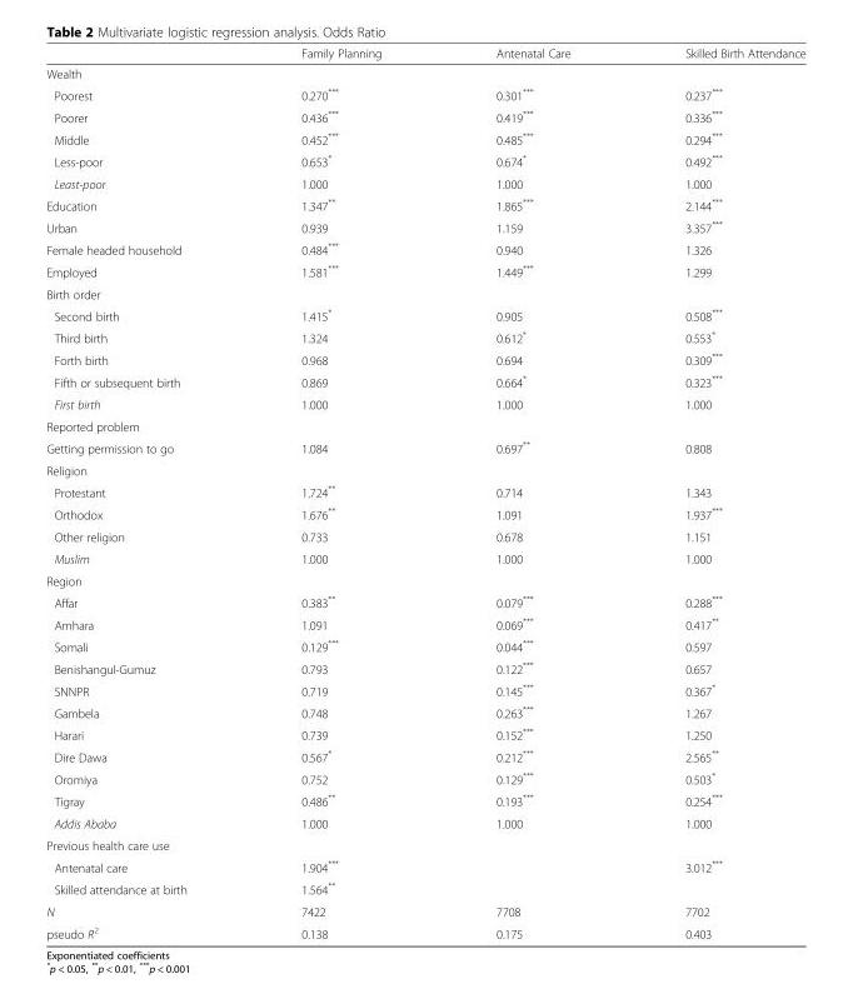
<table><thead><tr><td></td><td>Family Planning</td><td>Antenatal Care</td><td>Skilled Birth Attendance</td></tr></thead><tbody><tr><td colspan="4">Wealth</td></tr><tr><td>Poorest</td><td>0.270***</td><td>0.301***</td><td>0.237***</td></tr><tr><td>Poorer</td><td>0.436***</td><td>0.419***</td><td>0.336***</td></tr><tr><td>Middle</td><td>0.452***</td><td>0.485***</td><td>0.294***</td></tr><tr><td>Less-poor</td><td>0.653*</td><td>0.674*</td><td>0.492***</td></tr><tr><td>Least-poor</td><td>1.000</td><td>1.000</td><td>1.000</td></tr><tr><td>Education</td><td>1.347**</td><td>1.865***</td><td>2.144***</td></tr><tr><td>Urban</td><td>0.939</td><td>1.159</td><td>3.357***</td></tr><tr><td>Female headed household</td><td>0.484***</td><td>0.940</td><td>1.326</td></tr><tr><td>Employed</td><td>1.581***</td><td>1.449***</td><td>1.299</td></tr><tr><td colspan="4">Birth order</td></tr><tr><td>Second birth</td><td>1.415*</td><td>0.905</td><td>0.508***</td></tr><tr><td>Third birth</td><td>1.324</td><td>0.612*</td><td>0.553*</td></tr><tr><td>Forth birth</td><td>0.968</td><td>0.694</td><td>0.309***</td></tr><tr><td>Fifth or subsequent birth</td><td>0.869</td><td>0.664*</td><td>0.323***</td></tr><tr><td>First birth</td><td>1.000</td><td>1.000</td><td>1.000</td></tr><tr><td colspan="4">Reported problem</td></tr><tr><td>Getting permission to go</td><td>1.084</td><td>0.697**</td><td>0.808</td></tr><tr><td colspan="4">Religion</td></tr><tr><td>Protestant</td><td>1.724**</td><td>0.714</td><td>1.343</td></tr><tr><td>Orthodox</td><td>1.676**</td><td>1.091</td><td>1.937***</td></tr><tr><td>Other religion</td><td>0.733</td><td>0.678</td><td>1.151</td></tr><tr><td>Muslim</td><td>1.000</td><td>1.000</td><td>1.000</td></tr><tr><td colspan="4">Region</td></tr><tr><td>Affar</td><td>0.383**</td><td>0.079***</td><td>0.288***</td></tr><tr><td>Amhara</td><td>1.091</td><td>0.069***</td><td>0.417**</td></tr><tr><td>Somali</td><td>0.129***</td><td>0.044***</td><td>0.597</td></tr><tr><td>Benishangul-Gumuz</td><td>0.793</td><td>0.122***</td><td>0.657</td></tr><tr><td>SNNPR</td><td>0.719</td><td>0.145***</td><td>0.367*</td></tr><tr><td>Gambela</td><td>0.748</td><td>0.263***</td><td>1.267</td></tr><tr><td>Harari</td><td>0.739</td><td>0.152***</td><td>1.250</td></tr><tr><td>Dire Dawa</td><td>0.567*</td><td>0.212***</td><td>2.565**</td></tr><tr><td>Oromiya</td><td>0.752</td><td>0.129***</td><td>0.503*</td></tr><tr><td>Tigray</td><td>0.486**</td><td>0.193***</td><td>0.254***</td></tr><tr><td>Addis Ababa</td><td>1.000</td><td>1.000</td><td>1.000</td></tr><tr><td colspan="4">Previous health care use</td></tr><tr><td>Antenatal care</td><td>1.904***</td><td></td><td>3.012***</td></tr><tr><td>Skilled attendance at birth</td><td>1.564**</td><td></td><td></td></tr><tr><td>N</td><td>7422</td><td>7708</td><td>7702</td></tr><tr><td>pseudo R<sup>2</sup></td><td>0.138</td><td>0.175</td><td>0.403</td></tr></tbody></table>